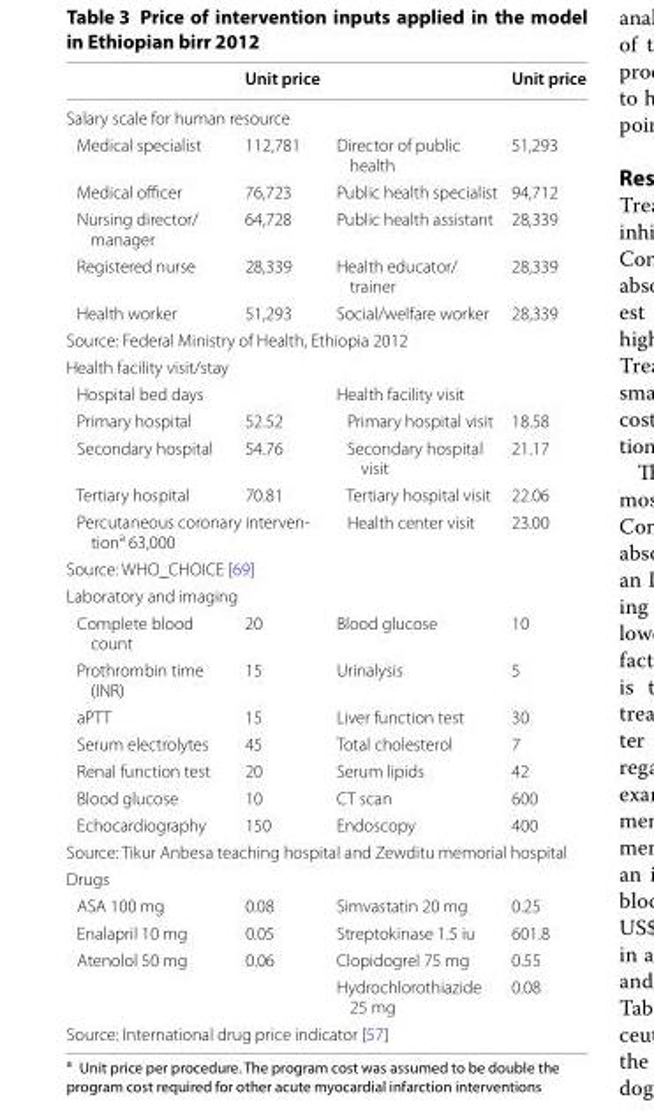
<table><thead><tr><td></td><td>Unit price</td><td></td><td>Unit price</td></tr></thead><tbody><tr><td colspan="4">Salary scale for human resource</td></tr><tr><td>Medical specialist</td><td>112,781</td><td>Director of public health</td><td>51,293</td></tr><tr><td>Medical officer</td><td>76,723</td><td>Public health specialist</td><td>94,712</td></tr><tr><td>Nursing director/ manager</td><td>64,728</td><td>Public health assistant</td><td>28,339</td></tr><tr><td>Registered nurse</td><td>28,339</td><td>Health educator/ trainer</td><td>28,339</td></tr><tr><td>Health worker</td><td>51,293</td><td>Social/welfare worker</td><td>28,339</td></tr><tr><td colspan="4">Source: Federal Ministry of Health, Ethiopia 2012</td></tr><tr><td colspan="4">Health facility visit/stay</td></tr><tr><td>Hospital bed days</td><td></td><td>Health facility visit</td><td></td></tr><tr><td>Primary hospital</td><td>52.52</td><td>Primary hospital visit</td><td>18.58</td></tr><tr><td>Secondary hospital</td><td>54.76</td><td>Secondary hospital visit</td><td>21.17</td></tr><tr><td>Tertiary hospital</td><td>70.81</td><td>Tertiary hospital visit</td><td>22.06</td></tr><tr><td colspan="2">Percutaneous coronary interven- tiona 63,000</td><td>Health center visit</td><td>23.00</td></tr><tr><td colspan="4">Source: WHO_CHOICE [69]</td></tr><tr><td colspan="4">Laboratory and imaging</td></tr><tr><td>Complete blood count</td><td>20</td><td>Blood glucose</td><td>10</td></tr><tr><td>Prothrombin time (INR)</td><td>15</td><td>Urinalysis</td><td>5</td></tr><tr><td>aPTT</td><td>15</td><td>Liver function test</td><td>30</td></tr><tr><td>Serum electrolytes</td><td>45</td><td>Total cholesterol</td><td>7</td></tr><tr><td>Renal function test</td><td>20</td><td>Serum lipids</td><td>42</td></tr><tr><td>Blood glucose</td><td>10</td><td>CT scan</td><td>600</td></tr><tr><td>Echocardiography</td><td>150</td><td>Endoscopy</td><td>400</td></tr><tr><td colspan="4">Source: Tikur Anbesa teaching hospital and Zewditu memorial hospital</td></tr><tr><td colspan="4">Drugs</td></tr><tr><td>ASA 100 mg</td><td>0.08</td><td>Simvastatin 20 mg</td><td>0.25</td></tr><tr><td>Enalapril 10 mg</td><td>0.05</td><td>Streptokinase 1.5 iu</td><td>601.8</td></tr><tr><td>Atenolol 50 mg</td><td>0.06</td><td>Clopidogrel 75 mg</td><td>0.55</td></tr><tr><td colspan="2"></td><td>Hydrochlorothiazide 25 mg</td><td>0.08</td></tr><tr><td colspan="4">Source: International drug price indicator [57]</td></tr></tbody></table>